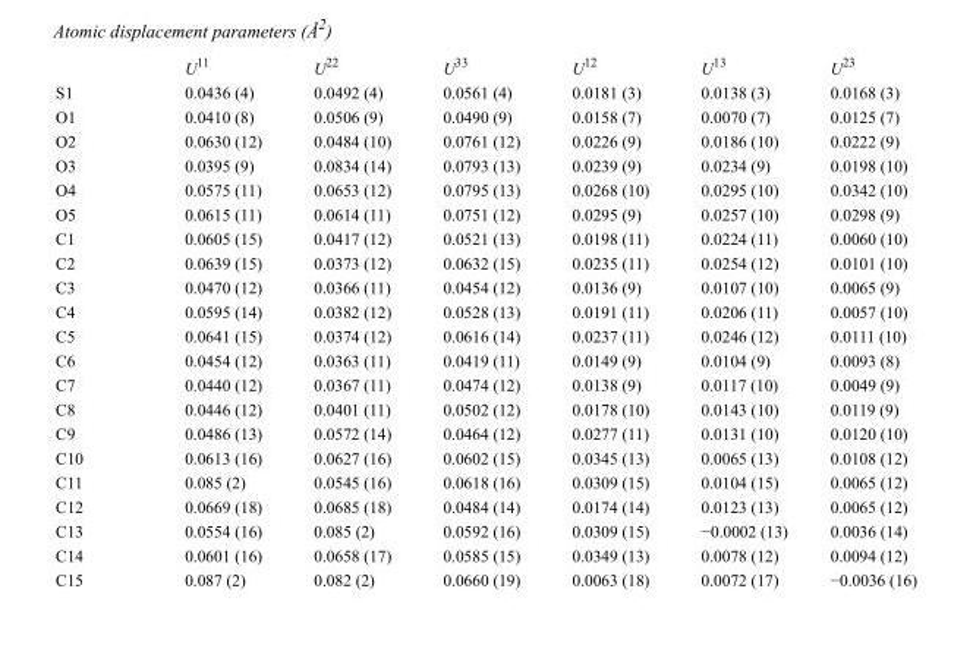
<table><thead><tr><td></td><td>U<sup>11</sup></td><td>U<sup>22</sup></td><td>U<sup>33</sup></td><td>U<sup>12</sup></td><td>U<sup>13</sup></td><td>U<sup>23</sup></td></tr></thead><tbody><tr><td>S1</td><td>0.0436 (4)</td><td>0.0492 (4)</td><td>0.0561 (4)</td><td>0.0181 (3)</td><td>0.0138 (3)</td><td>0.0168 (3)</td></tr><tr><td>O1</td><td>0.0410 (8)</td><td>0.0506 (9)</td><td>0.0490 (9)</td><td>0.0158 (7)</td><td>0.0070 (7)</td><td>0.0125 (7)</td></tr><tr><td>O2</td><td>0.0630 (12)</td><td>0.0484 (10)</td><td>0.0761 (12)</td><td>0.0226 (9)</td><td>0.0186 (10)</td><td>0.0222 (9)</td></tr><tr><td>O3</td><td>0.0395 (9)</td><td>0.0834 (14)</td><td>0.0793 (13)</td><td>0.0239 (9)</td><td>0.0234 (9)</td><td>0.0198 (10)</td></tr><tr><td>O4</td><td>0.0575 (11)</td><td>0.0653 (12)</td><td>0.0795 (13)</td><td>0.0268 (10)</td><td>0.0295 (10)</td><td>0.0342 (10)</td></tr><tr><td>O5</td><td>0.0615 (11)</td><td>0.0614 (11)</td><td>0.0751 (12)</td><td>0.0295 (9)</td><td>0.0257 (10)</td><td>0.0298 (9)</td></tr><tr><td>C1</td><td>0.0605 (15)</td><td>0.0417 (12)</td><td>0.0521 (13)</td><td>0.0198 (11)</td><td>0.0224 (11)</td><td>0.0060 (10)</td></tr><tr><td>C2</td><td>0.0639 (15)</td><td>0.0373 (12)</td><td>0.0632 (15)</td><td>0.0235 (11)</td><td>0.0254 (12)</td><td>0.0101 (10)</td></tr><tr><td>C3</td><td>0.0470 (12)</td><td>0.0366 (11)</td><td>0.0454 (12)</td><td>0.0136 (9)</td><td>0.0107 (10)</td><td>0.0065 (9)</td></tr><tr><td>C4</td><td>0.0595 (14)</td><td>0.0382 (12)</td><td>0.0528 (13)</td><td>0.0191 (11)</td><td>0.0206 (11)</td><td>0.0057 (10)</td></tr><tr><td>C5</td><td>0.0641 (15)</td><td>0.0374 (12)</td><td>0.0616 (14)</td><td>0.0237 (11)</td><td>0.0246 (12)</td><td>0.0111 (10)</td></tr><tr><td>C6</td><td>0.0454 (12)</td><td>0.0363 (11)</td><td>0.0419 (11)</td><td>0.0149 (9)</td><td>0.0104 (9)</td><td>0.0093 (8)</td></tr><tr><td>C7</td><td>0.0440 (12)</td><td>0.0367 (11)</td><td>0.0474 (12)</td><td>0.0138 (9)</td><td>0.0117 (10)</td><td>0.0049 (9)</td></tr><tr><td>C8</td><td>0.0446 (12)</td><td>0.0401 (11)</td><td>0.0502 (12)</td><td>0.0178 (10)</td><td>0.0143 (10)</td><td>0.0119 (9)</td></tr><tr><td>C9</td><td>0.0486 (13)</td><td>0.0572 (14)</td><td>0.0464 (12)</td><td>0.0277 (11)</td><td>0.0131 (10)</td><td>0.0120 (10)</td></tr><tr><td>C10</td><td>0.0613 (16)</td><td>0.0627 (16)</td><td>0.0602 (15)</td><td>0.0345 (13)</td><td>0.0065 (13)</td><td>0.0108 (12)</td></tr><tr><td>C11</td><td>0.085 (2)</td><td>0.0545 (16)</td><td>0.0618 (16)</td><td>0.0309 (15)</td><td>0.0104 (15)</td><td>0.0065 (12)</td></tr><tr><td>C12</td><td>0.0669 (18)</td><td>0.0685 (18)</td><td>0.0484 (14)</td><td>0.0174 (14)</td><td>0.0123 (13)</td><td>0.0065 (12)</td></tr><tr><td>C13</td><td>0.0554 (16)</td><td>0.085 (2)</td><td>0.0592 (16)</td><td>0.0309 (15)</td><td>−0.0002 (13)</td><td>0.0036 (14)</td></tr><tr><td>C14</td><td>0.0601 (16)</td><td>0.0658 (17)</td><td>0.0585 (15)</td><td>0.0349 (13)</td><td>0.0078 (12)</td><td>0.0094 (12)</td></tr><tr><td>C15</td><td>0.087 (2)</td><td>0.082 (2)</td><td>0.0660 (19)</td><td>0.0063 (18)</td><td>0.0072 (17)</td><td>−0.0036 (16)</td></tr></tbody></table>